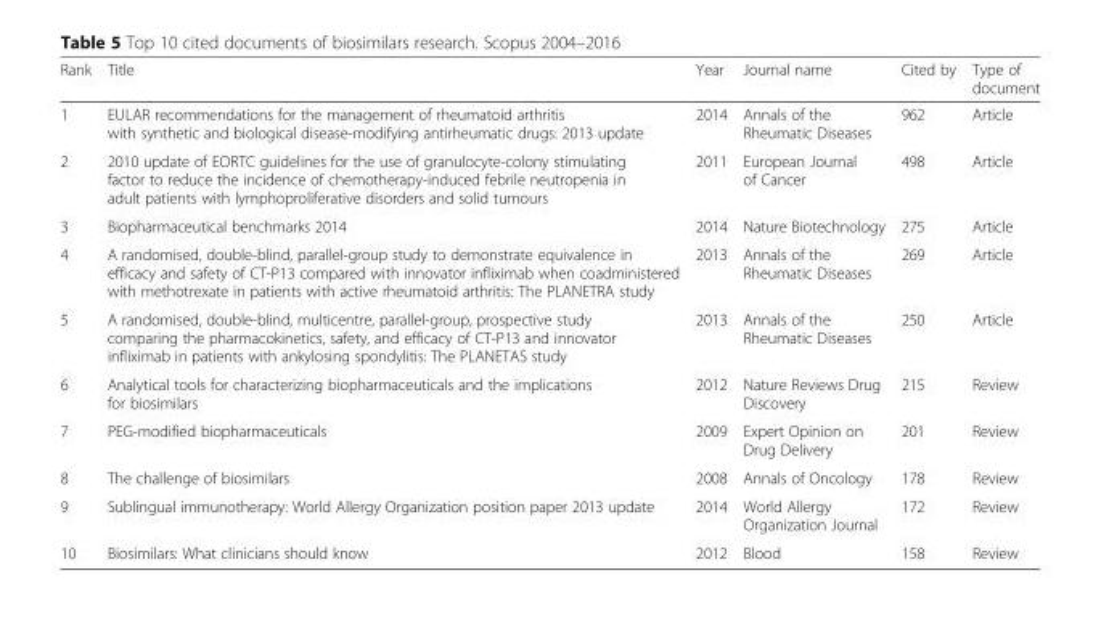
<table><thead><tr><td>Rank</td><td>Title</td><td>Year</td><td>Journal name</td><td>Cited by</td><td>Type of document</td></tr></thead><tbody><tr><td>1</td><td>EULAR recommendations for the management of rheumatoid arthritis with synthetic and biological disease-modifying antirheumatic drugs: 2013 update</td><td>2014</td><td>Annals of the Rheumatic Diseases</td><td>962</td><td>Article</td></tr><tr><td>2</td><td>2010 update of EORTC guidelines for the use of granulocyte-colony stimulating factor to reduce the incidence of chemotherapy-induced febrile neutropenia in adult patients with lymphoproliferative disorders and solid tumours</td><td>2011</td><td>European Journal of Cancer</td><td>498</td><td>Article</td></tr><tr><td>3</td><td>Biopharmaceutical benchmarks 2014</td><td>2014</td><td>Nature Biotechnology</td><td>275</td><td>Article</td></tr><tr><td>4</td><td>A randomised, double-blind, parallel-group study to demonstrate equivalence in efficacy and safety of CT-P13 compared with innovator infliximab when coadministered with methotrexate in patients with active rheumatoid arthritis: The PLANETRA study</td><td>2013</td><td>Annals of the Rheumatic Diseases</td><td>269</td><td>Article</td></tr><tr><td>5</td><td>A randomised, double-blind, multicentre, parallel-group, prospective study comparing the pharmacokinetics, safety, and efficacy of CT-P13 and innovator infliximab in patients with ankylosing spondylitis: The PLANETAS study</td><td>2013</td><td>Annals of the Rheumatic Diseases</td><td>250</td><td>Article</td></tr><tr><td>6</td><td>Analytical tools for characterizing biopharmaceuticals and the implications for biosimilars</td><td>2012</td><td>Nature Reviews Drug Discovery</td><td>215</td><td>Review</td></tr><tr><td>7</td><td>PEG-modified biopharmaceuticals</td><td>2009</td><td>Expert Opinion on Drug Delivery</td><td>201</td><td>Review</td></tr><tr><td>8</td><td>The challenge of biosimilars</td><td>2008</td><td>Annals of Oncology</td><td>178</td><td>Review</td></tr><tr><td>9</td><td>Sublingual immunotherapy: World Allergy Organization position paper 2013 update</td><td>2014</td><td>World Allergy Organization Journal</td><td>172</td><td>Review</td></tr><tr><td>10</td><td>Biosimilars: What clinicians should know</td><td>2012</td><td>Blood</td><td>158</td><td>Review</td></tr></tbody></table>